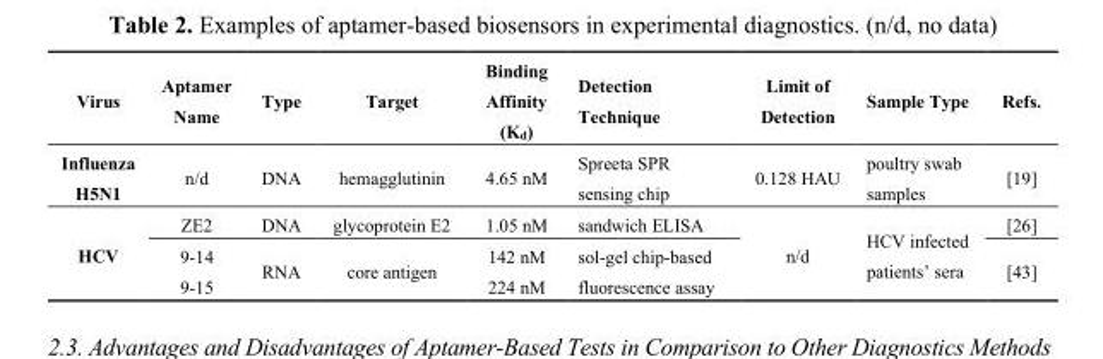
<table><thead><tr><td>Virus</td><td>Aptamer Name</td><td>Type</td><td>Target</td><td>Binding Affinity (K<sub>d</sub>)</td><td>Detection Technique</td><td>Limit of Detection</td><td>Sample Type</td><td>Refs.</td></tr></thead><tbody><tr><td>Influenza H5N1</td><td>n/d</td><td>DNA</td><td>hemagglutinin</td><td>4.65 nM</td><td>Spreeta SPR sensing chip</td><td>0.128 HAU</td><td>poultry swab samples</td><td>[19]</td></tr><tr><td rowspan="2">HCV</td><td>ZE2</td><td>DNA</td><td>glycoprotein E2</td><td>1.05 nM</td><td>sandwich ELISA</td><td rowspan="2">n/d</td><td rowspan="2">HCV infected patients’ sera</td><td>[26]</td></tr><tr><td>9-14 9-15</td><td>RNA</td><td>core antigen</td><td>142 nM 224 nM</td><td>sol-gel chip-based fluorescence assay</td><td>[43]</td></tr></tbody></table>